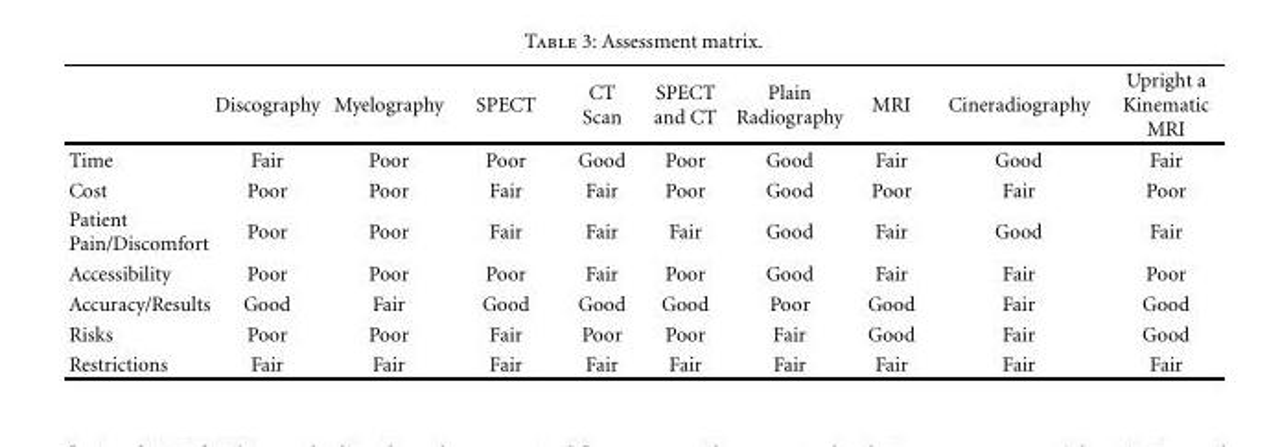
<table><thead><tr><td></td><td>Discography</td><td>Myelography</td><td>SPECT</td><td>CT Scan</td><td>SPECT and CT</td><td>Plain Radiography</td><td>MRI</td><td>Cineradiography</td><td>Upright a Kinematic MRI</td></tr></thead><tbody><tr><td>Time</td><td>Fair</td><td>Poor</td><td>Poor</td><td>Good</td><td>Poor</td><td>Good</td><td>Fair</td><td>Good</td><td>Fair</td></tr><tr><td>Cost</td><td>Poor</td><td>Poor</td><td>Fair</td><td>Fair</td><td>Poor</td><td>Good</td><td>Poor</td><td>Fair</td><td>Poor</td></tr><tr><td>Patient Pain/Discomfort</td><td>Poor</td><td>Poor</td><td>Fair</td><td>Fair</td><td>Fair</td><td>Good</td><td>Fair</td><td>Good</td><td>Fair</td></tr><tr><td>Accessibility</td><td>Poor</td><td>Poor</td><td>Poor</td><td>Fair</td><td>Poor</td><td>Good</td><td>Fair</td><td>Fair</td><td>Poor</td></tr><tr><td>Accuracy/Results</td><td>Good</td><td>Fair</td><td>Good</td><td>Good</td><td>Good</td><td>Poor</td><td>Good</td><td>Fair</td><td>Good</td></tr><tr><td>Risks</td><td>Poor</td><td>Poor</td><td>Fair</td><td>Poor</td><td>Poor</td><td>Fair</td><td>Good</td><td>Fair</td><td>Good</td></tr><tr><td>Restrictions</td><td>Fair</td><td>Fair</td><td>Fair</td><td>Fair</td><td>Fair</td><td>Fair</td><td>Fair</td><td>Fair</td><td>Fair</td></tr></tbody></table>